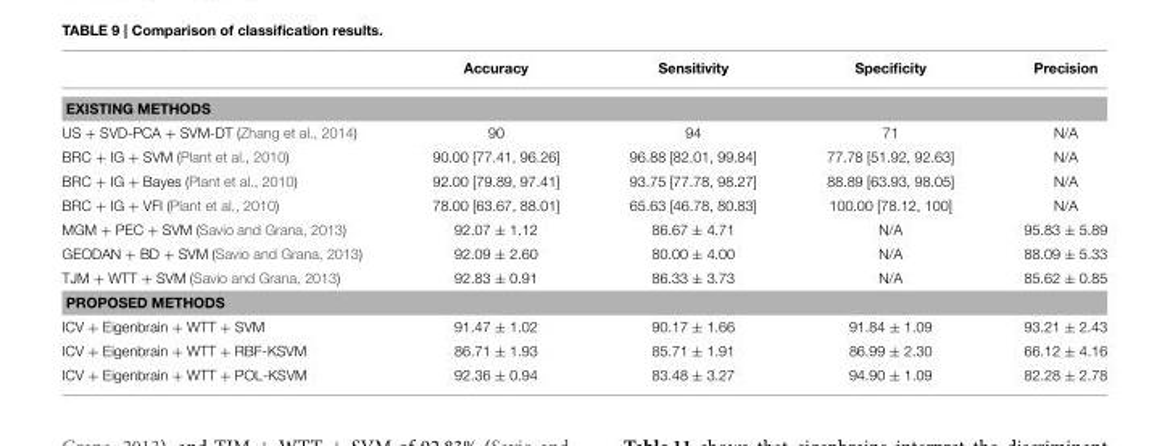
<table><thead><tr><td></td><td>Accuracy</td><td>Sensitivity</td><td>Specificity</td><td>Precision</td></tr></thead><tbody><tr><td colspan="5">EXISTING METHODS</td></tr><tr><td>US + SVD-PCA + SVM-DT (Zhang et al., 2014)</td><td>90</td><td>94</td><td>71</td><td>N/A</td></tr><tr><td>BRC + IG + SVM (Plant et al., 2010)</td><td>90.00 [77.41, 96.26]</td><td>96.88 [82.01, 99.84]</td><td>77.78 [51.92, 92.63]</td><td>N/A</td></tr><tr><td>BRC + IG + Bayes (Plant et al., 2010)</td><td>92.00 [79.89, 97.41]</td><td>93.75 [77.78, 98.27]</td><td>88.89 [63.93, 98.05]</td><td>N/A</td></tr><tr><td>BRC + IG + VFI (Plant et al., 2010)</td><td>78.00 [63.67, 88.01]</td><td>65.63 [46.78, 80.83]</td><td>100.00 [78.12, 100]</td><td>N/A</td></tr><tr><td>MGM + PEC + SVM (Savio and Grana, 2013)</td><td>92.07 ± 1.12</td><td>86.67 ± 4.71</td><td>N/A</td><td>95.83 ± 5.89</td></tr><tr><td>GEODAN + BD + SVM (Savio and Grana, 2013)</td><td>92.09 ± 2.60</td><td>80.00 ± 4.00</td><td>N/A</td><td>88.09 ± 5.33</td></tr><tr><td>TJM + WTT + SVM (Savio and Grana, 2013)</td><td>92.83 ± 0.91</td><td>86.33 ± 3.73</td><td>N/A</td><td>85.62 ± 0.85</td></tr><tr><td colspan="5">PROPOSED METHODS</td></tr><tr><td>ICV + Eigenbrain + WTT + SVM</td><td>91.47 ± 1.02</td><td>90.17 ± 1.66</td><td>91.84 ± 1.09</td><td>93.21 ± 2.43</td></tr><tr><td>ICV + Eigenbrain + WTT + RBF-KSVM</td><td>86.71 ± 1.93</td><td>85.71 ± 1.91</td><td>86.99 ± 2.30</td><td>66.12 ± 4.16</td></tr><tr><td>ICV + Eigenbrain + WTT + POL-KSVM</td><td>92.36 ± 0.94</td><td>83.48 ± 3.27</td><td>94.90 ± 1.09</td><td>82.28 ± 2.78</td></tr></tbody></table>